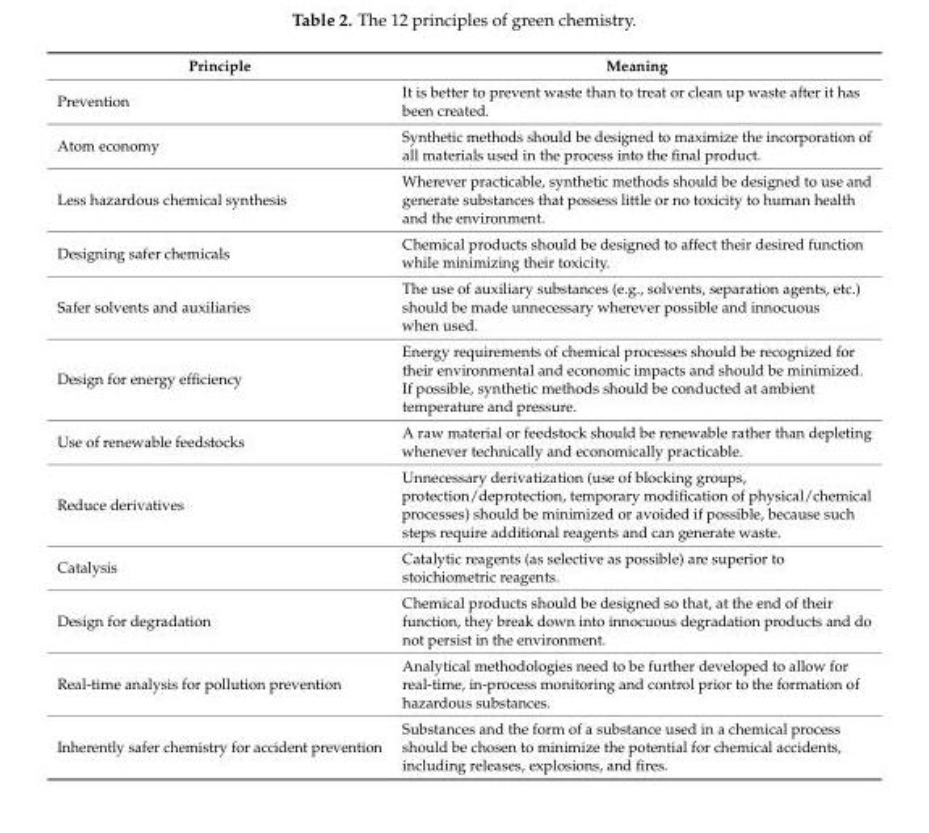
<table><thead><tr><td>Principle</td><td>Meaning</td></tr></thead><tbody><tr><td>Prevention</td><td>It is better to prevent waste than to treat or clean up waste after it has been created.</td></tr><tr><td>Atom economy</td><td>Synthetic methods should be designed to maximize the incorporation of all materials used in the process into the final product.</td></tr><tr><td>Less hazardous chemical synthesis</td><td>Wherever practicable, synthetic methods should be designed to use and generate substances that possess little or no toxicity to human health and the environment.</td></tr><tr><td>Designing safer chemicals</td><td>Chemical products should be designed to affect their desired function while minimizing their toxicity.</td></tr><tr><td>Safer solvents and auxiliaries</td><td>The use of auxiliary substances (e.g., solvents, separation agents, etc.) should be made unnecessary wherever possible and innocuous when used.</td></tr><tr><td>Design for energy efficiency</td><td>Energy requirements of chemical processes should be recognized for their environmental and economic impacts and should be minimized. If possible, synthetic methods should be conducted at ambient temperature and pressure.</td></tr><tr><td>Use of renewable feedstocks</td><td>A raw material or feedstock should be renewable rather than depleting whenever technically and economically practicable.</td></tr><tr><td>Reduce derivatives</td><td>Unnecessary derivatization (use of blocking groups, protection/deprotection, temporary modification of physical/chemical processes) should be minimized or avoided if possible, because such steps require additional reagents and can generate waste.</td></tr><tr><td>Catalysis</td><td>Catalytic reagents (as selective as possible) are superior to stoichiometric reagents.</td></tr><tr><td>Design for degradation</td><td>Chemical products should be designed so that, at the end of their function, they break down into innocuous degradation products and do not persist in the environment.</td></tr><tr><td>Real-time analysis for pollution prevention</td><td>Analytical methodologies need to be further developed to allow for real-time, in-process monitoring and control prior to the formation of hazardous substances.</td></tr><tr><td>Inherently safer chemistry for accident prevention</td><td>Substances and the form of a substance used in a chemical process should be chosen to minimize the potential for chemical accidents, including releases, explosions, and fires.</td></tr></tbody></table>